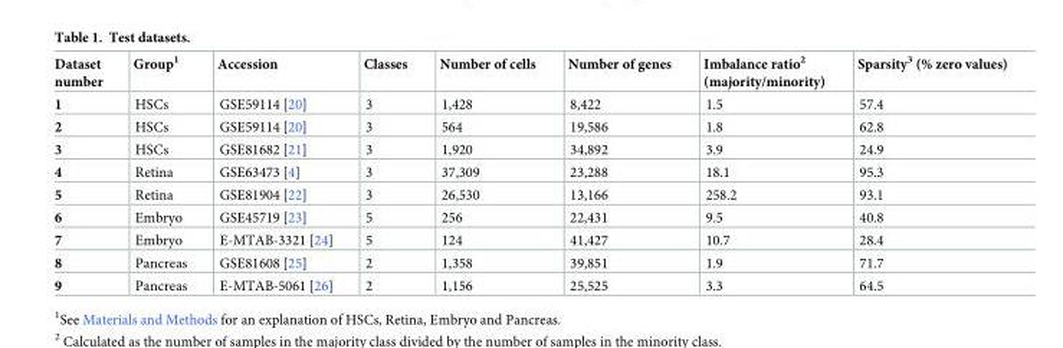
<table><thead><tr><td>Dataset number</td><td>Group<sup>1</sup></td><td>Accession</td><td>Classes</td><td>Number of cells</td><td>Number of genes</td><td>Imbalance ratio<sup>2</sup> (majority/minority)</td><td>Sparsity<sup>3</sup> (% zero values)</td></tr></thead><tbody><tr><td>1</td><td>HSCs</td><td>GSE59114 [20]</td><td>3</td><td>1,428</td><td>8,422</td><td>1.5</td><td>57.4</td></tr><tr><td>2</td><td>HSCs</td><td>GSE59114 [20]</td><td>3</td><td>564</td><td>19,586</td><td>1.8</td><td>62.8</td></tr><tr><td>3</td><td>HSCs</td><td>GSE81682 [21]</td><td>3</td><td>1,920</td><td>34,892</td><td>3.9</td><td>24.9</td></tr><tr><td>4</td><td>Retina</td><td>GSE63473 [4]</td><td>3</td><td>37,309</td><td>23,288</td><td>18.1</td><td>95.3</td></tr><tr><td>5</td><td>Retina</td><td>GSE81904 [22]</td><td>3</td><td>26,530</td><td>13,166</td><td>258.2</td><td>93.1</td></tr><tr><td>6</td><td>Embryo</td><td>GSE45719 [23]</td><td>5</td><td>256</td><td>22,431</td><td>9.5</td><td>40.8</td></tr><tr><td>7</td><td>Embryo</td><td>E-MTAB-3321 [24]</td><td>5</td><td>124</td><td>41,427</td><td>10.7</td><td>28.4</td></tr><tr><td>8</td><td>Pancreas</td><td>GSE81608 [25]</td><td>2</td><td>1,358</td><td>39,851</td><td>1.9</td><td>71.7</td></tr><tr><td>9</td><td>Pancreas</td><td>E-MTAB-5061 [26]</td><td>2</td><td>1,156</td><td>25,525</td><td>3.3</td><td>64.5</td></tr></tbody></table>